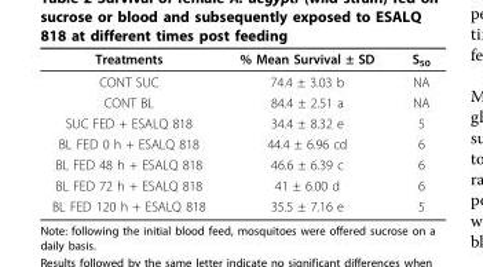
<table><thead><tr><td>Treatments</td><td>% Mean Survival ± SD</td><td>S<sub>50</sub></td></tr></thead><tbody><tr><td>CONT SUC</td><td>74.4 ± 3.03 b</td><td>NA</td></tr><tr><td>CONT BL</td><td>84.4 ± 2.51 a</td><td>NA</td></tr><tr><td>SUC FED + ESALQ 818</td><td>34.4 ± 8.32 e</td><td>5</td></tr><tr><td>BL FED 0 h + ESALQ 818</td><td>44.4 ± 6.96 cd</td><td>6</td></tr><tr><td>BL FED 48 h + ESALQ 818</td><td>46.6 ± 6.39 c</td><td>6</td></tr><tr><td>BL FED 72 h + ESALQ 818</td><td>41 ± 6.00 d</td><td>6</td></tr><tr><td>BL FED 120 h + ESALQ 818</td><td>35.5 ± 7.16 e</td><td>5</td></tr></tbody></table>